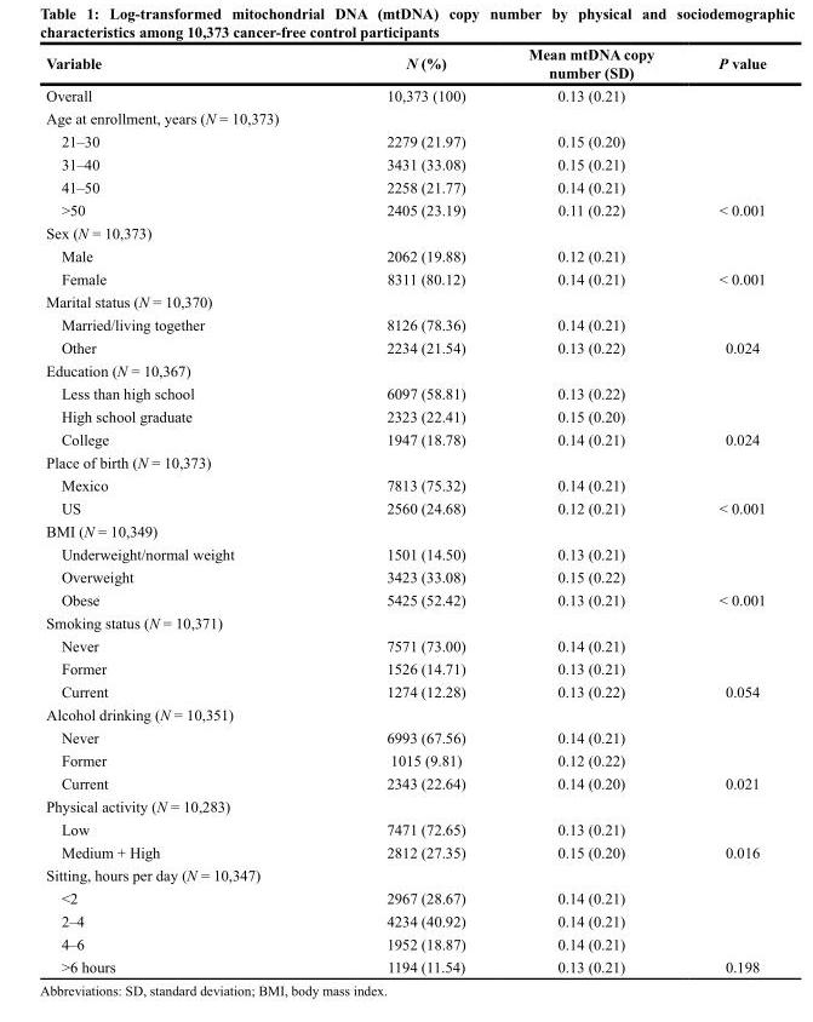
<table><thead><tr><td>Variable</td><td>N (%)</td><td>Mean mtDNA copy number (SD)</td><td>P value</td></tr></thead><tbody><tr><td>Overall</td><td>10,373 (100)</td><td>0.13 (0.21)</td><td></td></tr><tr><td colspan="4">Age at enrollment, years (N = 10,373)</td></tr><tr><td>21–30</td><td>2279 (21.97)</td><td>0.15 (0.20)</td><td></td></tr><tr><td>31–40</td><td>3431 (33.08)</td><td>0.15 (0.21)</td><td></td></tr><tr><td>41–50</td><td>2258 (21.77)</td><td>0.14 (0.21)</td><td></td></tr><tr><td>&gt;50</td><td>2405 (23.19)</td><td>0.11 (0.22)</td><td>&lt; 0.001</td></tr><tr><td colspan="4">Sex (N = 10,373)</td></tr><tr><td>Male</td><td>2062 (19.88)</td><td>0.12 (0.21)</td><td></td></tr><tr><td>Female</td><td>8311 (80.12)</td><td>0.14 (0.21)</td><td>&lt; 0.001</td></tr><tr><td colspan="4">Marital status (N = 10,370)</td></tr><tr><td>Married/living together</td><td>8126 (78.36)</td><td>0.14 (0.21)</td><td></td></tr><tr><td>Other</td><td>2234 (21.54)</td><td>0.13 (0.22)</td><td>0.024</td></tr><tr><td colspan="4">Education (N = 10,367)</td></tr><tr><td>Less than high school</td><td>6097 (58.81)</td><td>0.13 (0.22)</td><td></td></tr><tr><td>High school graduate</td><td>2323 (22.41)</td><td>0.15 (0.20)</td><td></td></tr><tr><td>College</td><td>1947 (18.78)</td><td>0.14 (0.21)</td><td>0.024</td></tr><tr><td colspan="4">Place of birth (N = 10,373)</td></tr><tr><td>Mexico</td><td>7813 (75.32)</td><td>0.14 (0.21)</td><td></td></tr><tr><td>US</td><td>2560 (24.68)</td><td>0.12 (0.21)</td><td>&lt; 0.001</td></tr><tr><td colspan="4">BMI (N = 10,349)</td></tr><tr><td>Underweight/normal weight</td><td>1501 (14.50)</td><td>0.13 (0.21)</td><td></td></tr><tr><td>Overweight</td><td>3423 (33.08)</td><td>0.15 (0.22)</td><td></td></tr><tr><td>Obese</td><td>5425 (52.42)</td><td>0.13 (0.21)</td><td>&lt; 0.001</td></tr><tr><td colspan="4">Smoking status (N = 10,371)</td></tr><tr><td>Never</td><td>7571 (73.00)</td><td>0.14 (0.21)</td><td></td></tr><tr><td>Former</td><td>1526 (14.71)</td><td>0.13 (0.21)</td><td></td></tr><tr><td>Current</td><td>1274 (12.28)</td><td>0.13 (0.22)</td><td>0.054</td></tr><tr><td colspan="4">Alcohol drinking (N = 10,351)</td></tr><tr><td>Never</td><td>6993 (67.56)</td><td>0.14 (0.21)</td><td></td></tr><tr><td>Former</td><td>1015 (9.81)</td><td>0.12 (0.22)</td><td></td></tr><tr><td>Current</td><td>2343 (22.64)</td><td>0.14 (0.20)</td><td>0.021</td></tr><tr><td colspan="4">Physical activity (N = 10,283)</td></tr><tr><td>Low</td><td>7471 (72.65)</td><td>0.13 (0.21)</td><td></td></tr><tr><td>Medium + High</td><td>2812 (27.35)</td><td>0.15 (0.20)</td><td>0.016</td></tr><tr><td colspan="4">Sitting, hours per day (N = 10,347)</td></tr><tr><td>&lt;2</td><td>2967 (28.67)</td><td>0.14 (0.21)</td><td></td></tr><tr><td>2–4</td><td>4234 (40.92)</td><td>0.14 (0.21)</td><td></td></tr><tr><td>4–6</td><td>1952 (18.87)</td><td>0.14 (0.21)</td><td></td></tr><tr><td>&gt;6 hours</td><td>1194 (11.54)</td><td>0.13 (0.21)</td><td>0.198</td></tr></tbody></table>